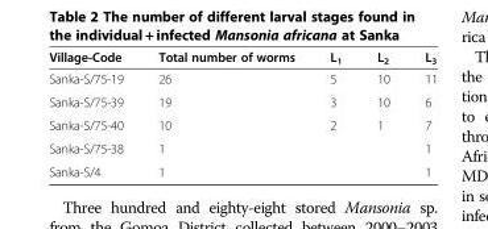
<table><thead><tr><td>Village-Code</td><td>Total number of worms</td><td>L<sub>1</sub></td><td>L<sub>2</sub></td><td>L<sub>3</sub></td></tr></thead><tbody><tr><td>Sanka-S/75-19</td><td>26</td><td>5</td><td>10</td><td>11</td></tr><tr><td>Sanka-S/75-39</td><td>19</td><td>3</td><td>10</td><td>6</td></tr><tr><td>Sanka-S/75-40</td><td>10</td><td>2</td><td>1</td><td>7</td></tr><tr><td>Sanka-S/75-38</td><td>1</td><td></td><td></td><td>1</td></tr><tr><td>Sanka-S/4</td><td>1</td><td></td><td></td><td>1</td></tr></tbody></table>